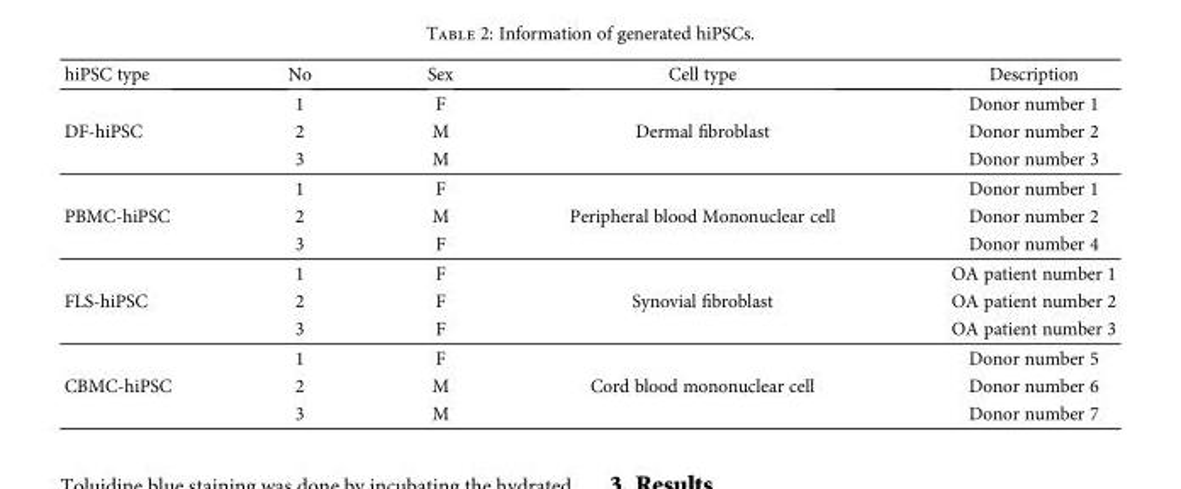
<table><thead><tr><td>hiPSC type</td><td>No</td><td>Sex</td><td>Cell type</td><td>Description</td></tr></thead><tbody><tr><td rowspan="3">DF-hiPSC</td><td>1</td><td>F</td><td rowspan="3">Dermal fibroblast</td><td>Donor number 1</td></tr><tr><td>2</td><td>M</td><td>Donor number 2</td></tr><tr><td>3</td><td>M</td><td>Donor number 3</td></tr><tr><td rowspan="3">PBMC-hiPSC</td><td>1</td><td>F</td><td rowspan="3">Peripheral blood Mononuclear cell</td><td>Donor number 1</td></tr><tr><td>2</td><td>M</td><td>Donor number 2</td></tr><tr><td>3</td><td>F</td><td>Donor number 4</td></tr><tr><td rowspan="3">FLS-hiPSC</td><td>1</td><td>F</td><td rowspan="3">Synovial fibroblast</td><td>OA patient number 1</td></tr><tr><td>2</td><td>F</td><td>OA patient number 2</td></tr><tr><td>3</td><td>F</td><td>OA patient number 3</td></tr><tr><td rowspan="3">CBMC-hiPSC</td><td>1</td><td>F</td><td rowspan="3">Cord blood mononuclear cell</td><td>Donor number 5</td></tr><tr><td>2</td><td>M</td><td>Donor number 6</td></tr><tr><td>3</td><td>M</td><td>Donor number 7</td></tr></tbody></table>